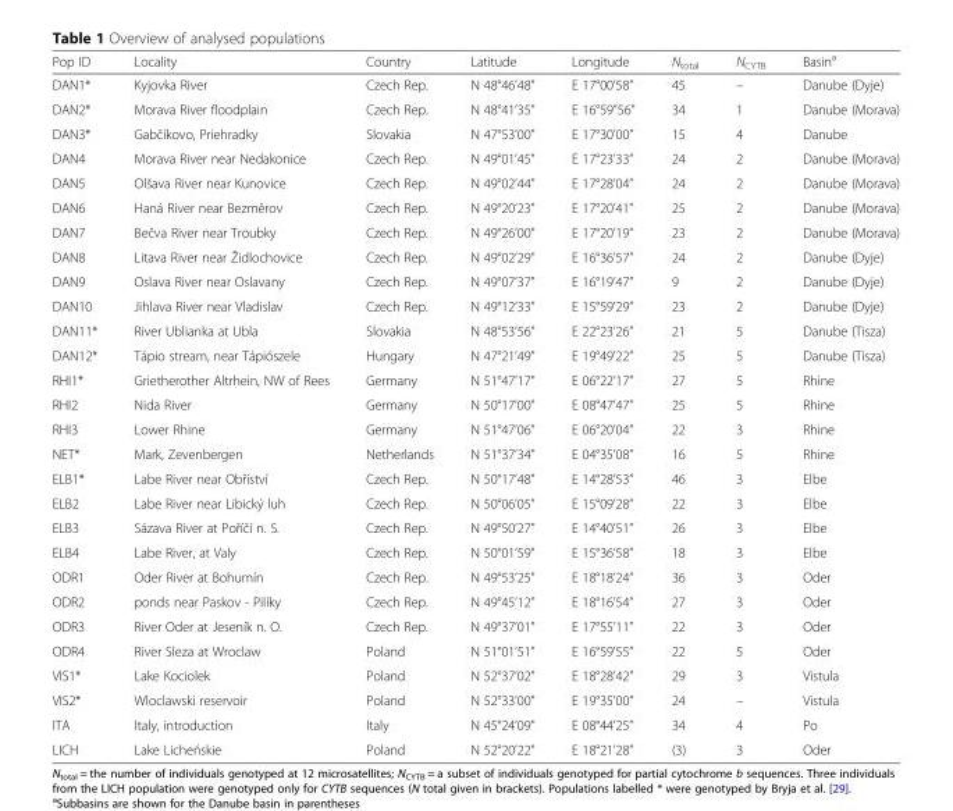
<table><thead><tr><td>Pop ID</td><td>Locality</td><td>Country</td><td>Latitude</td><td>Longitude</td><td>N<sub>total</sub></td><td>N<sub>CYTB</sub></td><td>Basin<sup>a</sup></td></tr></thead><tbody><tr><td>DAN1*</td><td>Kyjovka River</td><td>Czech Rep.</td><td>N 48°46’48”</td><td>E 17°00’58”</td><td>45</td><td>–</td><td>Danube (Dyje)</td></tr><tr><td>DAN2*</td><td>Morava River floodplain</td><td>Czech Rep.</td><td>N 48°41’35”</td><td>E 16°59”56”</td><td>34</td><td>1</td><td>Danube (Morava)</td></tr><tr><td>DAN3*</td><td>Gabčíkovo, Priehradky</td><td>Slovakia</td><td>N 47°53’00”</td><td>E 17°30’00”</td><td>15</td><td>4</td><td>Danube</td></tr><tr><td>DAN4</td><td>Morava River near Nedakonice</td><td>Czech Rep.</td><td>N 49°01’45”</td><td>E 17°23’33”</td><td>24</td><td>2</td><td>Danube (Morava)</td></tr><tr><td>DAN5</td><td>Olšava River near Kunovice</td><td>Czech Rep.</td><td>N 49°02’44”</td><td>E 17°28’04”</td><td>24</td><td>2</td><td>Danube (Morava)</td></tr><tr><td>DAN6</td><td>Haná River near Bezměrov</td><td>Czech Rep.</td><td>N 49°20’23”</td><td>E 17°20’41”</td><td>25</td><td>2</td><td>Danube (Morava)</td></tr><tr><td>DAN7</td><td>Bečva River near Troubky</td><td>Czech Rep.</td><td>N 49°26’00”</td><td>E 17°20’19”</td><td>23</td><td>2</td><td>Danube (Morava)</td></tr><tr><td>DAN8</td><td>Litava River near Židlochovice</td><td>Czech Rep.</td><td>N 49°02’29”</td><td>E 16°36’57”</td><td>24</td><td>2</td><td>Danube (Dyje)</td></tr><tr><td>DAN9</td><td>Oslava River near Oslavany</td><td>Czech Rep.</td><td>N 49°07’37”</td><td>E 16°19’47”</td><td>9</td><td>2</td><td>Danube (Dyje)</td></tr><tr><td>DAN10</td><td>Jihlava River near Vladislav</td><td>Czech Rep.</td><td>N 49°12’33”</td><td>E 15°59’29”</td><td>23</td><td>2</td><td>Danube (Dyje)</td></tr><tr><td>DAN11*</td><td>River Ublianka at Ubla</td><td>Slovakia</td><td>N 48°53’56”</td><td>E 22°23’26”</td><td>21</td><td>5</td><td>Danube (Tisza)</td></tr><tr><td>DAN12*</td><td>Tápio stream, near Tápiószele</td><td>Hungary</td><td>N 47°21’49”</td><td>E 19°49’22”</td><td>25</td><td>5</td><td>Danube (Tisza)</td></tr><tr><td>RHI1*</td><td>Grietherother Altrhein, NW of Rees</td><td>Germany</td><td>N 51°47’17”</td><td>E 06°22’17”</td><td>27</td><td>5</td><td>Rhine</td></tr><tr><td>RHI2</td><td>Nida River</td><td>Germany</td><td>N 50°17’00”</td><td>E 08°47’47”</td><td>25</td><td>5</td><td>Rhine</td></tr><tr><td>RHI3</td><td>Lower Rhine</td><td>Germany</td><td>N 51°47’06”</td><td>E 06°20’04”</td><td>22</td><td>3</td><td>Rhine</td></tr><tr><td>NET*</td><td>Mark, Zevenbergen</td><td>Netherlands</td><td>N 51°37’34”</td><td>E 04°35’08”</td><td>16</td><td>5</td><td>Rhine</td></tr><tr><td>ELB1*</td><td>Labe River near Obříství</td><td>Czech Rep.</td><td>N 50°17’48”</td><td>E 14°28’53”</td><td>46</td><td>3</td><td>Elbe</td></tr><tr><td>ELB2</td><td>Labe River near Libický luh</td><td>Czech Rep.</td><td>N 50°06’05”</td><td>E 15°09’28”</td><td>22</td><td>3</td><td>Elbe</td></tr><tr><td>ELB3</td><td>Sázava River at Poříčí n. S.</td><td>Czech Rep.</td><td>N 49°50’27”</td><td>E 14°40’51”</td><td>26</td><td>3</td><td>Elbe</td></tr><tr><td>ELB4</td><td>Labe River, at Valy</td><td>Czech Rep.</td><td>N 50°01’59”</td><td>E 15°36’58”</td><td>18</td><td>3</td><td>Elbe</td></tr><tr><td>ODR1</td><td>Oder River at Bohumín</td><td>Czech Rep.</td><td>N 49°53’25”</td><td>E 18°18’24”</td><td>36</td><td>3</td><td>Oder</td></tr><tr><td>ODR2</td><td>ponds near Paskov - Pilíky</td><td>Czech Rep.</td><td>N 49°45’12”</td><td>E 18°16’54”</td><td>27</td><td>3</td><td>Oder</td></tr><tr><td>ODR3</td><td>River Oder at Jeseník n. O.</td><td>Czech Rep.</td><td>N 49°37’01”</td><td>E 17°55’11”</td><td>22</td><td>3</td><td>Oder</td></tr><tr><td>ODR4</td><td>River Sleza at Wroclaw</td><td>Poland</td><td>N 51°01’51”</td><td>E 16°59’55”</td><td>22</td><td>5</td><td>Oder</td></tr><tr><td>VIS1*</td><td>Lake Kociolek</td><td>Poland</td><td>N 52°37’02”</td><td>E 18°28’42”</td><td>29</td><td>3</td><td>Vistula</td></tr><tr><td>VIS2*</td><td>Wloclawski reservoir</td><td>Poland</td><td>N 52°33’00”</td><td>E 19°35’00”</td><td>24</td><td>–</td><td>Vistula</td></tr><tr><td>ITA</td><td>Italy, introduction</td><td>Italy</td><td>N 45°24’09”</td><td>E 08°44’25”</td><td>34</td><td>4</td><td>Po</td></tr><tr><td>LICH</td><td>Lake Licheńskie</td><td>Poland</td><td>N 52°20’22”</td><td>E 18°21’28”</td><td>(3)</td><td>3</td><td>Oder</td></tr></tbody></table>